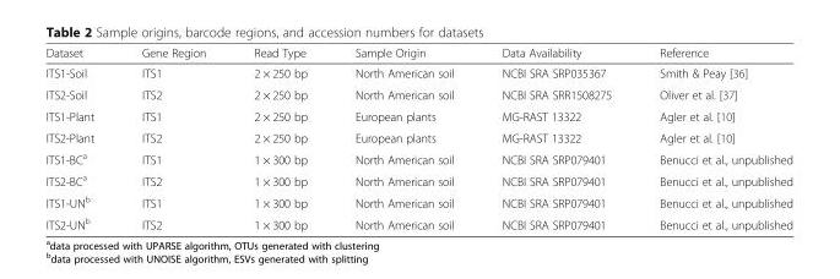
<table><thead><tr><td>Dataset</td><td>Gene Region</td><td>Read Type</td><td>Sample Origin</td><td>Data Availability</td><td>Reference</td></tr></thead><tbody><tr><td>ITS1-Soil</td><td>ITS1</td><td>2 × 250 bp</td><td>North American soil</td><td>NCBI SRA SRP035367</td><td>Smith &amp; Peay [36]</td></tr><tr><td>ITS2-Soil</td><td>ITS2</td><td>2 × 250 bp</td><td>North American soil</td><td>NCBI SRA SRR1508275</td><td>Oliver et al. [37]</td></tr><tr><td>ITS1-Plant</td><td>ITS1</td><td>2 × 250 bp</td><td>European plants</td><td>MG-RAST 13322</td><td>Agler et al. [10]</td></tr><tr><td>ITS2-Plant</td><td>ITS2</td><td>2 × 250 bp</td><td>European plants</td><td>MG-RAST 13322</td><td>Agler et al. [10]</td></tr><tr><td>ITS1-BC<sup>a</sup></td><td>ITS1</td><td>1 × 300 bp</td><td>North American soil</td><td>NCBI SRA SRP079401</td><td>Benucci et al., unpublished</td></tr><tr><td>ITS2-BC<sup>a</sup></td><td>ITS2</td><td>1 × 300 bp</td><td>North American soil</td><td>NCBI SRA SRP079401</td><td>Benucci et al., unpublished</td></tr><tr><td>ITS1-UN<sup>b</sup></td><td>ITS1</td><td>1 × 300 bp</td><td>North American soil</td><td>NCBI SRA SRP079401</td><td>Benucci et al., unpublished</td></tr><tr><td>ITS2-UN<sup>b</sup></td><td>ITS2</td><td>1 × 300 bp</td><td>North American soil</td><td>NCBI SRA SRP079401</td><td>Benucci et al., unpublished</td></tr></tbody></table>